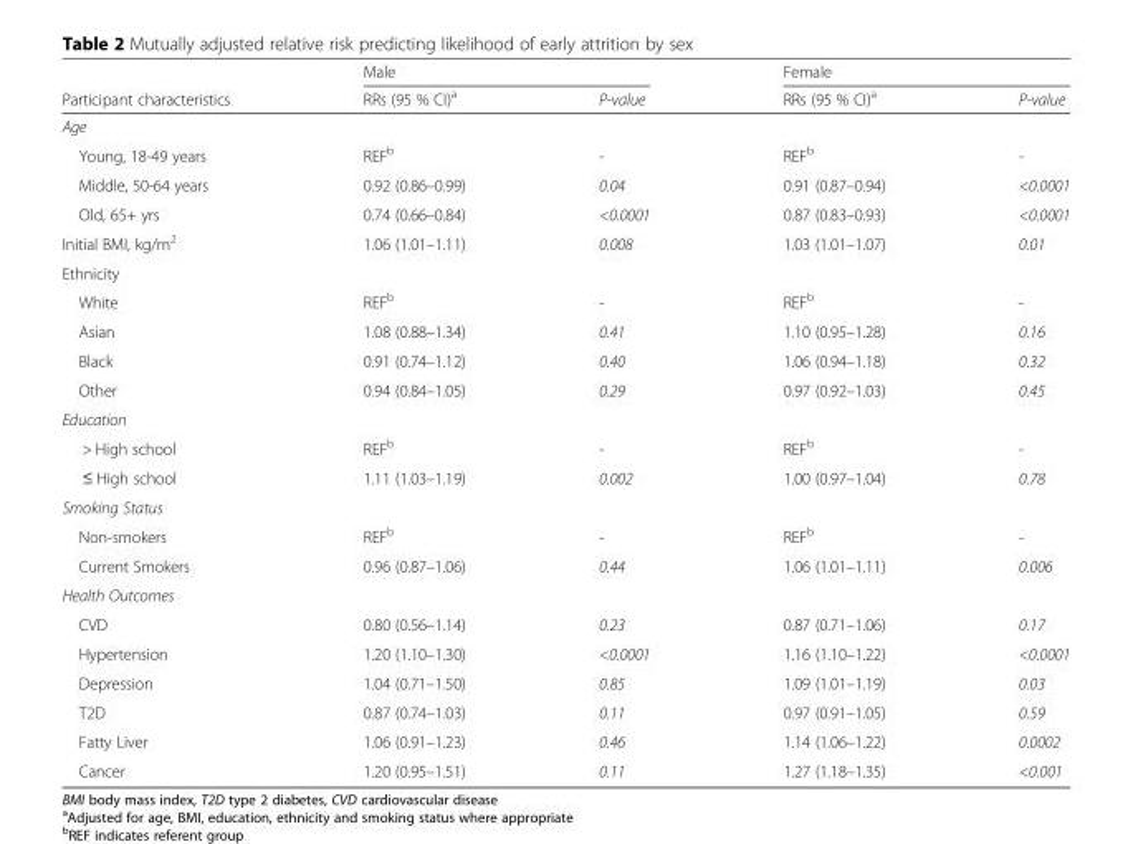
<table><thead><tr><td rowspan="2">Participant characteristics</td><td colspan="2">Male</td><td colspan="2">Female</td></tr><tr><td>RRs (95 % CI)<sup>a</sup></td><td>P-value</td><td>RRs (95 % CI)<sup>a</sup></td><td>P-value</td></tr></thead><tbody><tr><td colspan="5">Age</td></tr><tr><td>Young, 18-49 years</td><td>REF<sup>b</sup></td><td>-</td><td>REF<sup>b</sup></td><td>-</td></tr><tr><td>Middle, 50-64 years</td><td>0.92 (0.86–0.99)</td><td>0.04</td><td>0.91 (0.87–0.94)</td><td>&lt;0.0001</td></tr><tr><td>Old, 65+ yrs</td><td>0.74 (0.66–0.84)</td><td>&lt;0.0001</td><td>0.87 (0.83–0.93)</td><td>&lt;0.0001</td></tr><tr><td>Initial BMI, kg/m<sup>2</sup></td><td>1.06 (1.01–1.11)</td><td>0.008</td><td>1.03 (1.01–1.07)</td><td>0.01</td></tr><tr><td colspan="5">Ethnicity</td></tr><tr><td>White</td><td>REF<sup>b</sup></td><td>-</td><td>REF<sup>b</sup></td><td>-</td></tr><tr><td>Asian</td><td>1.08 (0.88–1.34)</td><td>0.41</td><td>1.10 (0.95–1.28)</td><td>0.16</td></tr><tr><td>Black</td><td>0.91 (0.74–1.12)</td><td>0.40</td><td>1.06 (0.94–1.18)</td><td>0.32</td></tr><tr><td>Other</td><td>0.94 (0.84–1.05)</td><td>0.29</td><td>0.97 (0.92–1.03)</td><td>0.45</td></tr><tr><td colspan="5">Education</td></tr><tr><td>&gt; High school</td><td>REF<sup>b</sup></td><td>-</td><td>REF<sup>b</sup></td><td>-</td></tr><tr><td>≤ High school</td><td>1.11 (1.03–1.19)</td><td>0.002</td><td>1.00 (0.97–1.04)</td><td>0.78</td></tr><tr><td colspan="5">Smoking Status</td></tr><tr><td>Non-smokers</td><td>REF<sup>b</sup></td><td>-</td><td>REF<sup>b</sup></td><td>-</td></tr><tr><td>Current Smokers</td><td>0.96 (0.87–1.06)</td><td>0.44</td><td>1.06 (1.01–1.11)</td><td>0.006</td></tr><tr><td colspan="5">Health Outcomes</td></tr><tr><td>CVD</td><td>0.80 (0.56–1.14)</td><td>0.23</td><td>0.87 (0.71–1.06)</td><td>0.17</td></tr><tr><td>Hypertension</td><td>1.20 (1.10–1.30)</td><td>&lt;0.0001</td><td>1.16 (1.10–1.22)</td><td>&lt;0.0001</td></tr><tr><td>Depression</td><td>1.04 (0.71–1.50)</td><td>0.85</td><td>1.09 (1.01–1.19)</td><td>0.03</td></tr><tr><td>T2D</td><td>0.87 (0.74–1.03)</td><td>0.11</td><td>0.97 (0.91–1.05)</td><td>0.59</td></tr><tr><td>Fatty Liver</td><td>1.06 (0.91–1.23)</td><td>0.46</td><td>1.14 (1.06–1.22)</td><td>0.0002</td></tr><tr><td>Cancer</td><td>1.20 (0.95–1.51)</td><td>0.11</td><td>1.27 (1.18–1.35)</td><td>&lt;0.001</td></tr></tbody></table>